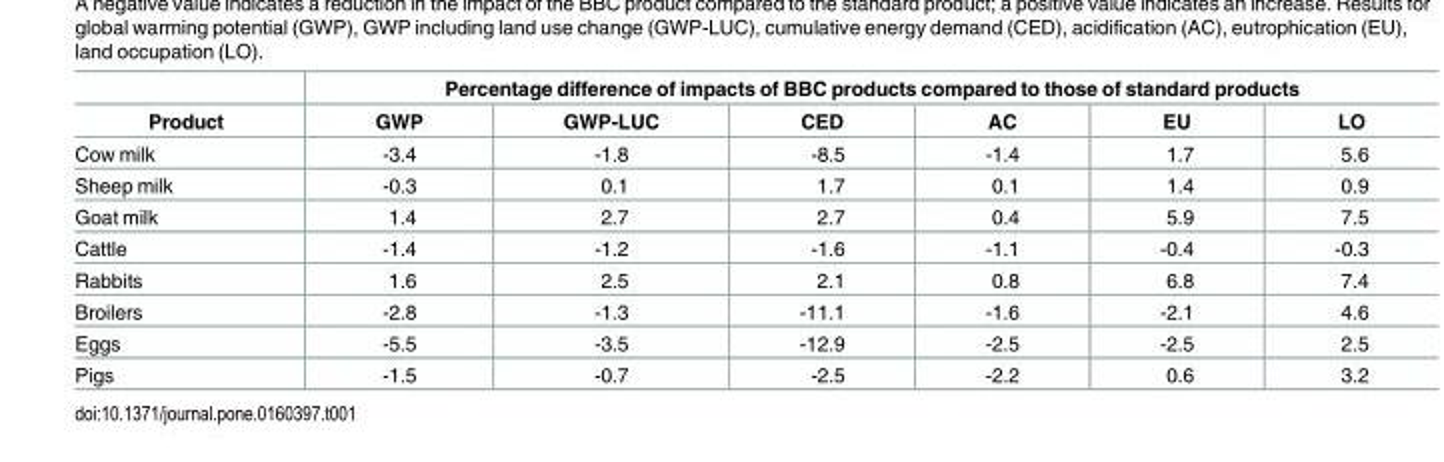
<table><thead><tr><td rowspan="2">Product</td><td colspan="6">Percentage difference of impacts of BBC products compared to those of standard products</td></tr><tr><td>GWP</td><td>GWP-LUC</td><td>CED</td><td>AC</td><td>EU</td><td>LO</td></tr></thead><tbody><tr><td>Cow milk</td><td>-3.4</td><td>-1.8</td><td>-8.5</td><td>-1.4</td><td>1.7</td><td>5.6</td></tr><tr><td>Sheep milk</td><td>-0.3</td><td>0.1</td><td>1.7</td><td>0.1</td><td>1.4</td><td>0.9</td></tr><tr><td>Goat milk</td><td>1.4</td><td>2.7</td><td>2.7</td><td>0.4</td><td>5.9</td><td>7.5</td></tr><tr><td>Cattle</td><td>-1.4</td><td>-1.2</td><td>-1.6</td><td>-1.1</td><td>-0.4</td><td>-0.3</td></tr><tr><td>Rabbits</td><td>1.6</td><td>2.5</td><td>2.1</td><td>0.8</td><td>6.8</td><td>7.4</td></tr><tr><td>Broilers</td><td>-2.8</td><td>-1.3</td><td>-11.1</td><td>-1.6</td><td>-2.1</td><td>4.6</td></tr><tr><td>Eggs</td><td>-5.5</td><td>-3.5</td><td>-12.9</td><td>-2.5</td><td>-2.5</td><td>2.5</td></tr><tr><td>Pigs</td><td>-1.5</td><td>-0.7</td><td>-2.5</td><td>-2.2</td><td>0.6</td><td>3.2</td></tr></tbody></table>